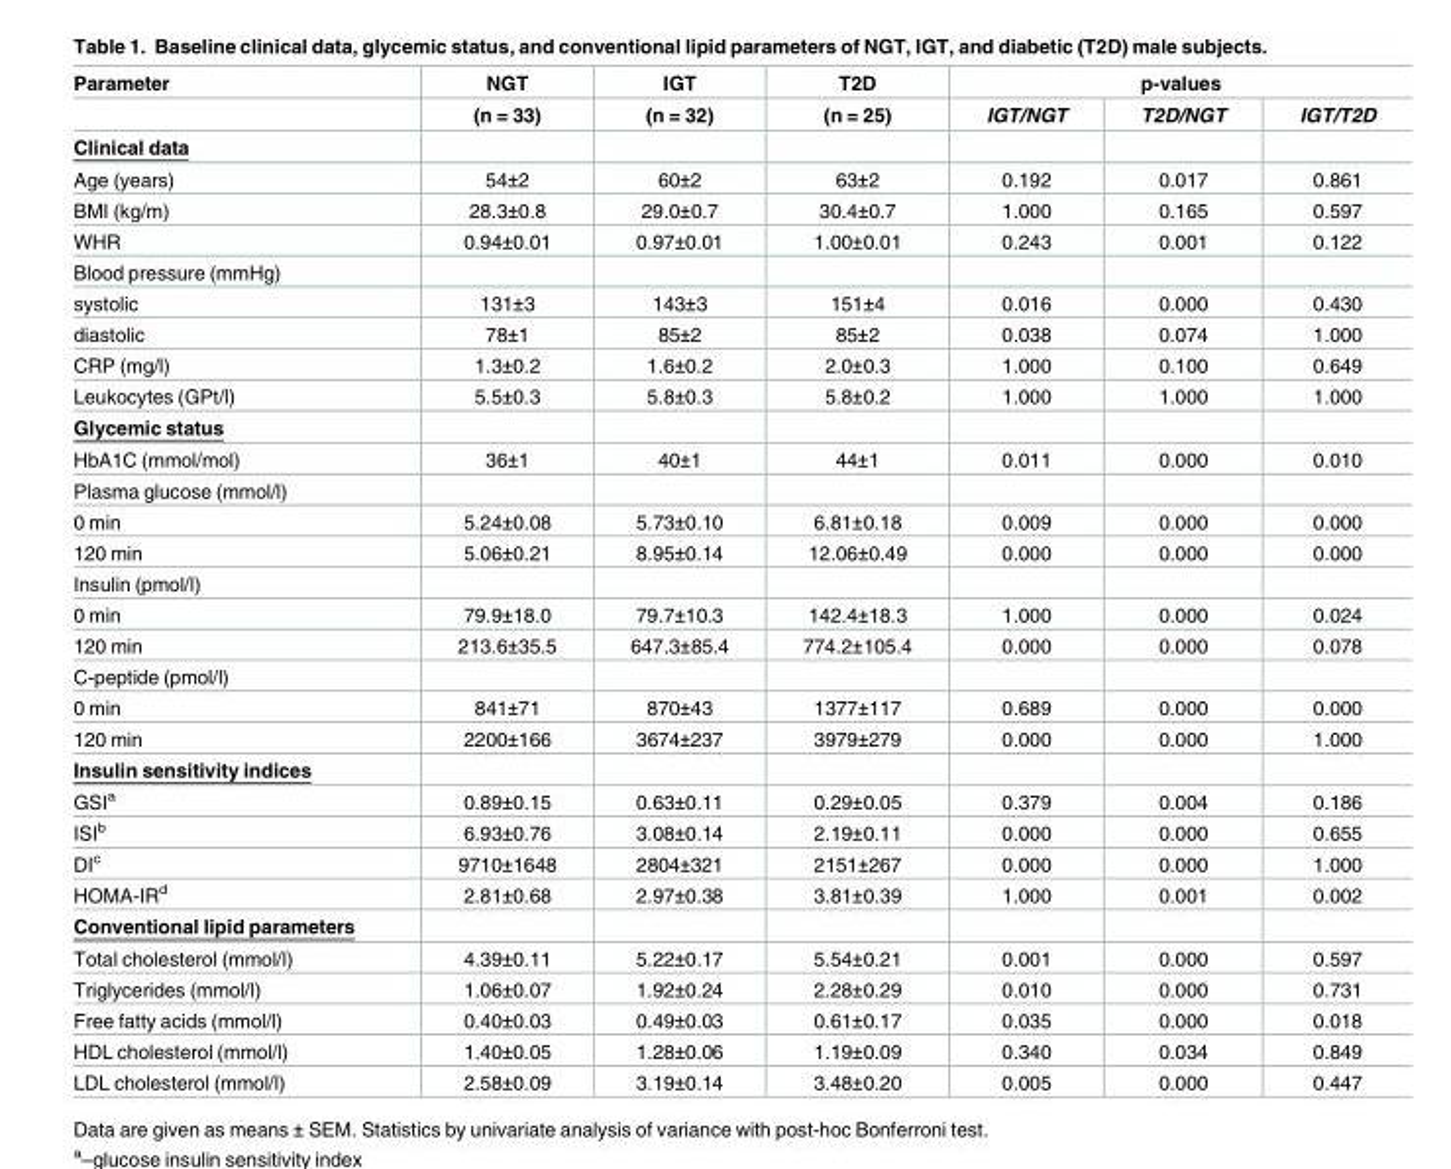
<table><thead><tr><td rowspan="2">Parameter</td><td rowspan="2">NGT (n = 33)</td><td rowspan="2">IGT (n = 32)</td><td rowspan="2">T2D (n = 25)</td><td colspan="3">p-values</td></tr><tr><td>IGT/NGT</td><td>T2D/NGT</td><td>IGT/T2D</td></tr></thead><tbody><tr><td colspan="7">Clinical data</td></tr><tr><td>Age (years)</td><td>54±2</td><td>60±2</td><td>63±2</td><td>0.192</td><td>0.017</td><td>0.861</td></tr><tr><td>BMI (kg/m)</td><td>28.3±0.8</td><td>29.0±0.7</td><td>30.4±0.7</td><td>1.000</td><td>0.165</td><td>0.597</td></tr><tr><td>WHR</td><td>0.94±0.01</td><td>0.97±0.01</td><td>1.00±0.01</td><td>0.243</td><td>0.001</td><td>0.122</td></tr><tr><td colspan="7">Blood pressure (mmHg)</td></tr><tr><td>systolic</td><td>131±3</td><td>143±3</td><td>151±4</td><td>0.016</td><td>0.000</td><td>0.430</td></tr><tr><td>diastolic</td><td>78±1</td><td>85±2</td><td>85±2</td><td>0.038</td><td>0.074</td><td>1.000</td></tr><tr><td>CRP (mg/l)</td><td>1.3±0.2</td><td>1.6±0.2</td><td>2.0±0.3</td><td>1.000</td><td>0.100</td><td>0.649</td></tr><tr><td>Leukocytes (GPt/l)</td><td>5.5±0.3</td><td>5.8±0.3</td><td>5.8±0.2</td><td>1.000</td><td>1.000</td><td>1.000</td></tr><tr><td colspan="7">Glycemic status</td></tr><tr><td>HbA1C (mmol/mol)</td><td>36±1</td><td>40±1</td><td>44±1</td><td>0.011</td><td>0.000</td><td>0.010</td></tr><tr><td colspan="7">Plasma glucose (mmol/l)</td></tr><tr><td>0 min</td><td>5.24±0.08</td><td>5.73±0.10</td><td>6.81±0.18</td><td>0.009</td><td>0.000</td><td>0.000</td></tr><tr><td>120 min</td><td>5.06±0.21</td><td>8.95±0.14</td><td>12.06±0.49</td><td>0.000</td><td>0.000</td><td>0.000</td></tr><tr><td colspan="7">Insulin (pmol/l)</td></tr><tr><td>0 min</td><td>79.9±18.0</td><td>79.7±10.3</td><td>142.4±18.3</td><td>1.000</td><td>0.000</td><td>0.024</td></tr><tr><td>120 min</td><td>213.6±35.5</td><td>647.3±85.4</td><td>774.2±105.4</td><td>0.000</td><td>0.000</td><td>0.078</td></tr><tr><td colspan="7">C-peptide (pmol/l)</td></tr><tr><td>0 min</td><td>841±71</td><td>870±43</td><td>1377±117</td><td>0.689</td><td>0.000</td><td>0.000</td></tr><tr><td>120 min</td><td>2200±166</td><td>3674±237</td><td>3979±279</td><td>0.000</td><td>0.000</td><td>1.000</td></tr><tr><td colspan="7">Insulin sensitivity indices</td></tr><tr><td>GSI<sup>a</sup></td><td>0.89±0.15</td><td>0.63±0.11</td><td>0.29±0.05</td><td>0.379</td><td>0.004</td><td>0.186</td></tr><tr><td>ISI<sup>b</sup></td><td>6.93±0.76</td><td>3.08±0.14</td><td>2.19±0.11</td><td>0.000</td><td>0.000</td><td>0.655</td></tr><tr><td>DI<sup>c</sup></td><td>9710±1648</td><td>2804±321</td><td>2151±267</td><td>0.000</td><td>0.000</td><td>1.000</td></tr><tr><td>HOMA-IR<sup>d</sup></td><td>2.81±0.68</td><td>2.97±0.38</td><td>3.81±0.39</td><td>1.000</td><td>0.001</td><td>0.002</td></tr><tr><td colspan="7">Conventional lipid parameters</td></tr><tr><td>Total cholesterol (mmol/l)</td><td>4.39±0.11</td><td>5.22±0.17</td><td>5.54±0.21</td><td>0.001</td><td>0.000</td><td>0.597</td></tr><tr><td>Triglycerides (mmol/l)</td><td>1.06±0.07</td><td>1.92±0.24</td><td>2.28±0.29</td><td>0.010</td><td>0.000</td><td>0.731</td></tr><tr><td>Free fatty acids (mmol/l)</td><td>0.40±0.03</td><td>0.49±0.03</td><td>0.61±0.17</td><td>0.035</td><td>0.000</td><td>0.018</td></tr><tr><td>HDL cholesterol (mmol/l)</td><td>1.40±0.05</td><td>1.28±0.06</td><td>1.19±0.09</td><td>0.340</td><td>0.034</td><td>0.849</td></tr><tr><td>LDL cholesterol (mmol/l)</td><td>2.58±0.09</td><td>3.19±0.14</td><td>3.48±0.20</td><td>0.005</td><td>0.000</td><td>0.447</td></tr></tbody></table>